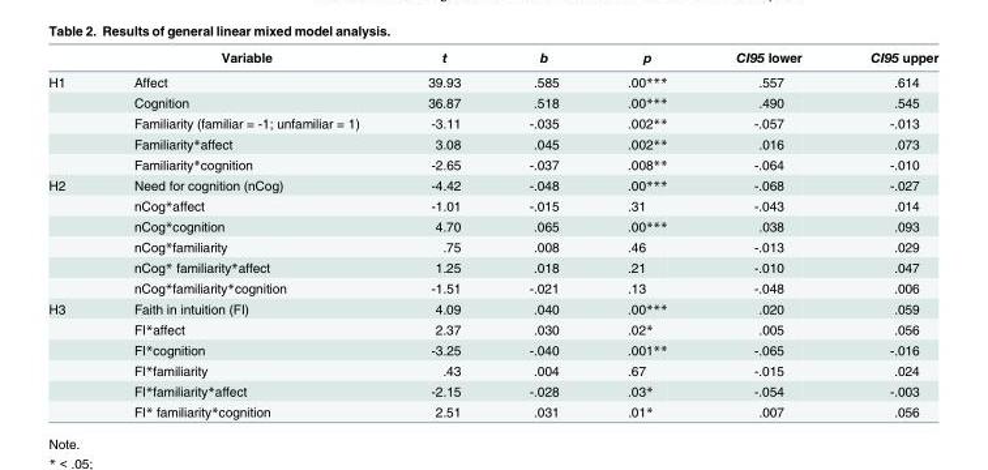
<table><thead><tr><td></td><td>Variable</td><td>t</td><td>b</td><td>p</td><td>CI95 lower</td><td>CI95 upper</td></tr></thead><tbody><tr><td rowspan="5">H1</td><td>Affect</td><td>39.93</td><td>.585</td><td>.00***</td><td>.557</td><td>.614</td></tr><tr><td>Cognition</td><td>36.87</td><td>.518</td><td>.00***</td><td>.490</td><td>.545</td></tr><tr><td>Familiarity (familiar = -1; unfamiliar = 1)</td><td>-3.11</td><td>-.035</td><td>.002**</td><td>-.057</td><td>-.013</td></tr><tr><td>Familiarity*affect</td><td>3.08</td><td>.045</td><td>.002**</td><td>.016</td><td>.073</td></tr><tr><td>Familiarity*cognition</td><td>-2.65</td><td>-.037</td><td>.008**</td><td>-.064</td><td>-.010</td></tr><tr><td rowspan="6">H2</td><td>Need for cognition (nCog)</td><td>-4.42</td><td>-.048</td><td>.00***</td><td>-.068</td><td>-.027</td></tr><tr><td>nCog*affect</td><td>-1.01</td><td>-.015</td><td>.31</td><td>-.043</td><td>.014</td></tr><tr><td>nCog*cognition</td><td>4.70</td><td>.065</td><td>.00***</td><td>.038</td><td>.093</td></tr><tr><td>nCog*familiarity</td><td>.75</td><td>.008</td><td>.46</td><td>-.013</td><td>.029</td></tr><tr><td>nCog* familiarity*affect</td><td>1.25</td><td>.018</td><td>.21</td><td>-.010</td><td>.047</td></tr><tr><td>nCog*familiarity*cognition</td><td>-1.51</td><td>-.021</td><td>.13</td><td>-.048</td><td>.006</td></tr><tr><td rowspan="6">H3</td><td>Faith in intuition (FI)</td><td>4.09</td><td>.040</td><td>.00***</td><td>.020</td><td>.059</td></tr><tr><td>FI*affect</td><td>2.37</td><td>.030</td><td>.02*</td><td>.005</td><td>.056</td></tr><tr><td>FI*cognition</td><td>-3.25</td><td>-.040</td><td>.001**</td><td>-.065</td><td>-.016</td></tr><tr><td>FI*familiarity</td><td>.43</td><td>.004</td><td>.67</td><td>-.015</td><td>.024</td></tr><tr><td>FI*familiarity*affect</td><td>-2.15</td><td>-.028</td><td>.03*</td><td>-.054</td><td>-.003</td></tr><tr><td>FI* familiarity*cognition</td><td>2.51</td><td>.031</td><td>.01*</td><td>.007</td><td>.056</td></tr></tbody></table>